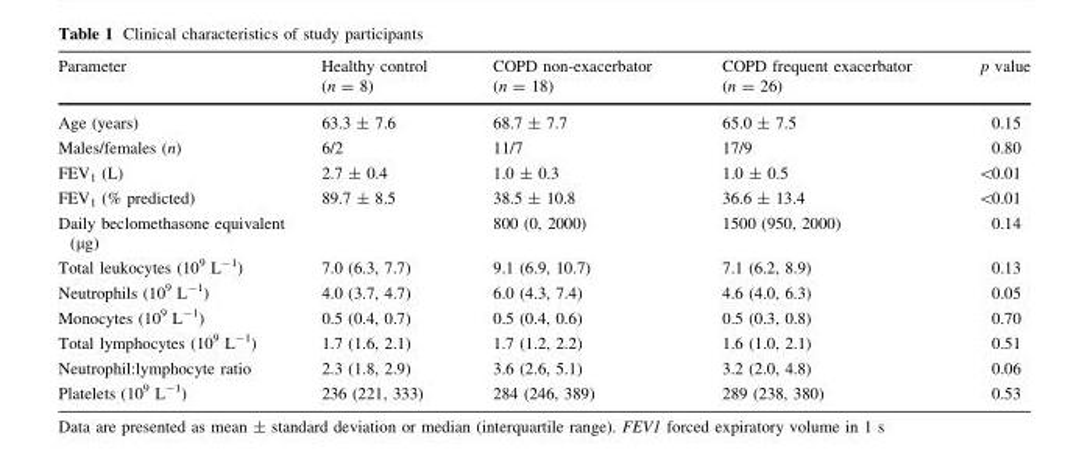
<table><thead><tr><td>Parameter</td><td>Healthy control (n = 8)</td><td>COPD non-exacerbator (n = 18)</td><td>COPD frequent exacerbator (n = 26)</td><td>p value</td></tr></thead><tbody><tr><td>Age (years)</td><td>63.3 ± 7.6</td><td>68.7 ± 7.7</td><td>65.0 ± 7.5</td><td>0.15</td></tr><tr><td>Males/females (n)</td><td>6/2</td><td>11/7</td><td>17/9</td><td>0.80</td></tr><tr><td>FEV<sub>1</sub> (L)</td><td>2.7 ± 0.4</td><td>1.0 ± 0.3</td><td>1.0 ± 0.5</td><td>&lt;0.01</td></tr><tr><td>FEV<sub>1</sub> (% predicted)</td><td>89.7 ± 8.5</td><td>38.5 ± 10.8</td><td>36.6 ± 13.4</td><td>&lt;0.01</td></tr><tr><td>Daily beclomethasone equivalent (µg)</td><td></td><td>800 (0, 2000)</td><td>1500 (950, 2000)</td><td>0.14</td></tr><tr><td>Total leukocytes (10<sup>9</sup> L<sup>-1</sup>)</td><td>7.0 (6.3, 7.7)</td><td>9.1 (6.9, 10.7)</td><td>7.1 (6.2, 8.9)</td><td>0.13</td></tr><tr><td>Neutrophils (10<sup>9</sup> L<sup>-1</sup>)</td><td>4.0 (3.7, 4.7)</td><td>6.0 (4.3, 7.4)</td><td>4.6 (4.0, 6.3)</td><td>0.05</td></tr><tr><td>Monocytes (10<sup>9</sup> L<sup>-1</sup>)</td><td>0.5 (0.4, 0.7)</td><td>0.5 (0.4, 0.6)</td><td>0.5 (0.3, 0.8)</td><td>0.70</td></tr><tr><td>Total lymphocytes (10<sup>9</sup> L<sup>-1</sup>)</td><td>1.7 (1.6, 2.1)</td><td>1.7 (1.2, 2.2)</td><td>1.6 (1.0, 2.1)</td><td>0.51</td></tr><tr><td>Neutrophil:lymphocyte ratio</td><td>2.3 (1.8, 2.9)</td><td>3.6 (2.6, 5.1)</td><td>3.2 (2.0, 4.8)</td><td>0.06</td></tr><tr><td>Platelets (10<sup>9</sup> L<sup>-1</sup>)</td><td>236 (221, 333)</td><td>284 (246, 389)</td><td>289 (238, 380)</td><td>0.53</td></tr></tbody></table>